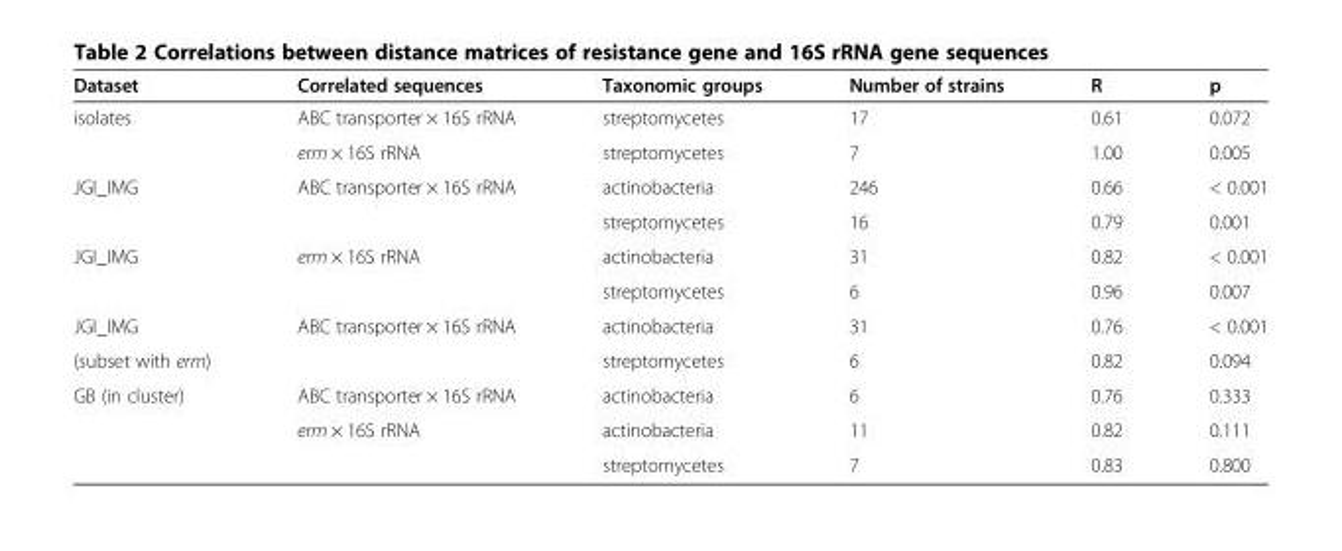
<table><thead><tr><td>Dataset</td><td>Correlated sequences</td><td>Taxonomic groups</td><td>Number of strains</td><td>R</td><td>p</td></tr></thead><tbody><tr><td rowspan="2">isolates</td><td>ABC transporter × 16S rRNA</td><td>streptomycetes</td><td>17</td><td>0.61</td><td>0.072</td></tr><tr><td>erm × 16S rRNA</td><td>streptomycetes</td><td>7</td><td>1.00</td><td>0.005</td></tr><tr><td rowspan="2">JGI_IMG</td><td>ABC transporter × 16S rRNA</td><td>actinobacteria</td><td>246</td><td>0.66</td><td>&lt; 0.001</td></tr><tr><td></td><td>streptomycetes</td><td>16</td><td>0.79</td><td>0.001</td></tr><tr><td rowspan="2">JGI_IMG</td><td>erm × 16S rRNA</td><td>actinobacteria</td><td>31</td><td>0.82</td><td>&lt; 0.001</td></tr><tr><td></td><td>streptomycetes</td><td>6</td><td>0.96</td><td>0.007</td></tr><tr><td>JGI_IMG</td><td>ABC transporter × 16S rRNA</td><td>actinobacteria</td><td>31</td><td>0.76</td><td>&lt; 0.001</td></tr><tr><td>(subset with erm)</td><td></td><td>streptomycetes</td><td>6</td><td>0.82</td><td>0.094</td></tr><tr><td rowspan="3">GB (in cluster)</td><td>ABC transporter × 16S rRNA</td><td>actinobacteria</td><td>6</td><td>0.76</td><td>0.333</td></tr><tr><td>erm × 16S rRNA</td><td>actinobacteria</td><td>11</td><td>0.82</td><td>0.111</td></tr><tr><td></td><td>streptomycetes</td><td>7</td><td>0.83</td><td>0.800</td></tr></tbody></table>